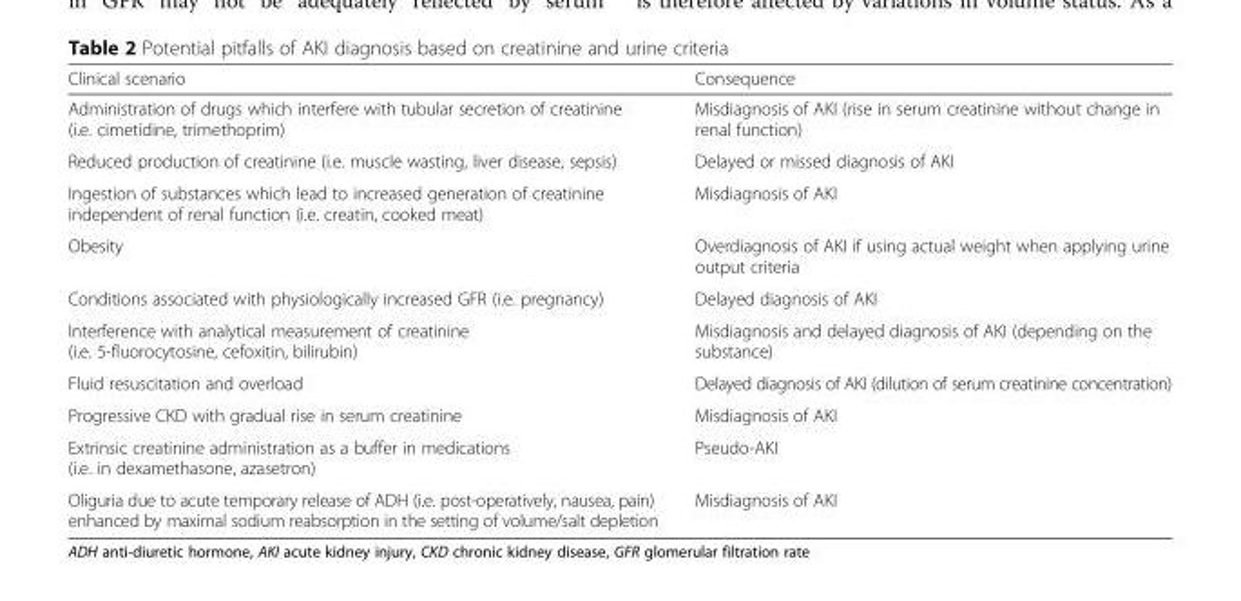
<table><thead><tr><td>Clinical scenario</td><td>Consequence</td></tr></thead><tbody><tr><td>Administration of drugs which interfere with tubular secretion of creatinine (i.e. cimetidine, trimethoprim)</td><td>Misdiagnosis of AKI (rise in serum creatinine without change in renal function)</td></tr><tr><td>Reduced production of creatinine (i.e. muscle wasting, liver disease, sepsis)</td><td>Delayed or missed diagnosis of AKI</td></tr><tr><td>Ingestion of substances which lead to increased generation of creatinine independent of renal function (i.e. creatin, cooked meat)</td><td>Misdiagnosis of AKI</td></tr><tr><td>Obesity</td><td>Overdiagnosis of AKI if using actual weight when applying urine output criteria</td></tr><tr><td>Conditions associated with physiologically increased GFR (i.e. pregnancy)</td><td>Delayed diagnosis of AKI</td></tr><tr><td>Interference with analytical measurement of creatinine (i.e. 5-fluorocytosine, cefoxitin, bilirubin)</td><td>Misdiagnosis and delayed diagnosis of AKI (depending on the substance)</td></tr><tr><td>Fluid resuscitation and overload</td><td>Delayed diagnosis of AKI (dilution of serum creatinine concentration)</td></tr><tr><td>Progressive CKD with gradual rise in serum creatinine</td><td>Misdiagnosis of AKI</td></tr><tr><td>Extrinsic creatinine administration as a buffer in medications (i.e. in dexamethasone, azasetron)</td><td>Pseudo-AKI</td></tr><tr><td>Oliguria due to acute temporary release of ADH (i.e. post-operatively, nausea, pain) enhanced by maximal sodium reabsorption in the setting of volume/salt depletion</td><td>Misdiagnosis of AKI</td></tr></tbody></table>